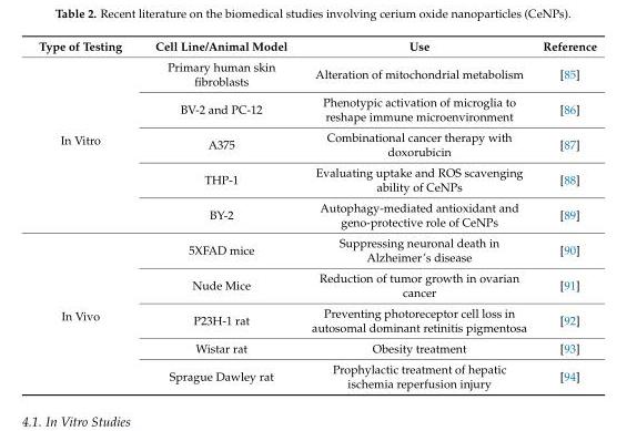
<table><thead><tr><td>Type of Testing</td><td>Cell Line/Animal Model</td><td>Use</td><td>Reference</td></tr></thead><tbody><tr><td rowspan="5">In Vitro</td><td>Primary human skin fibroblasts</td><td>Alteration of mitochondrial metabolism</td><td>[85]</td></tr><tr><td>BV-2 and PC-12</td><td>Phenotypic activation of microglia to reshape immune microenvironment</td><td>[86]</td></tr><tr><td>A375</td><td>Combinational cancer therapy with doxorubicin</td><td>[87]</td></tr><tr><td>THP-1</td><td>Evaluating uptake and ROS scavenging ability of CeNPs</td><td>[88]</td></tr><tr><td>BY-2</td><td>Autophagy-mediated antioxidant and geno-protective role of CeNPs</td><td>[89]</td></tr><tr><td rowspan="5">In Vivo</td><td>5XFAD mice</td><td>Suppressing neuronal death in Alzheimer’s disease</td><td>[90]</td></tr><tr><td>Nude Mice</td><td>Reduction of tumor growth in ovarian cancer</td><td>[91]</td></tr><tr><td>P23H-1 rat</td><td>Preventing photoreceptor cell loss in autosomal dominant retinitis pigmentosa</td><td>[92]</td></tr><tr><td>Wistar rat</td><td>Obesity treatment</td><td>[93]</td></tr><tr><td>Sprague Dawley rat</td><td>Prophylactic treatment of hepatic ischemia reperfusion injury</td><td>[94]</td></tr></tbody></table>